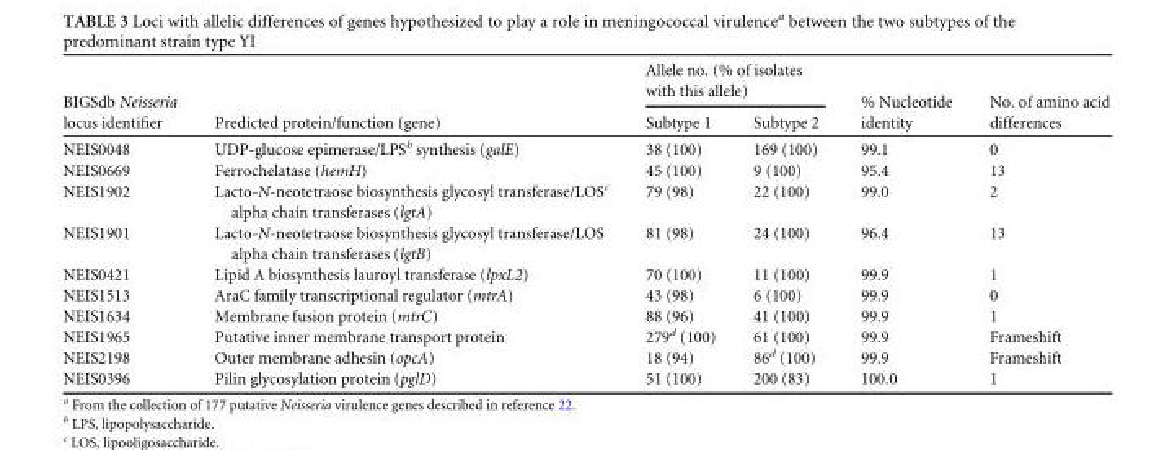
<table><thead><tr><td rowspan="2">BIGSdb Neisseria locus identifier</td><td rowspan="2">Predicted protein/function (gene)</td><td colspan="2">Allele no. (% of isolates with this allele)</td><td rowspan="2">% Nucleotide identity</td><td rowspan="2">No. of amino acid differences</td></tr><tr><td>Subtype 1</td><td>Subtype 2</td></tr></thead><tbody><tr><td>NEIS0048</td><td>UDP-glucose epimerase/LPS<sup>b</sup> synthesis (galE)</td><td>38 (100)</td><td>169 (100)</td><td>99.1</td><td>0</td></tr><tr><td>NEIS0669</td><td>Ferrochelatase (hemH)</td><td>45 (100)</td><td>9 (100)</td><td>95.4</td><td>13</td></tr><tr><td>NEIS1902</td><td>Lacto-N-neotetraose biosynthesis glycosyl transferase/LOS<sup>c</sup> alpha chain transferases (lgtA)</td><td>79 (98)</td><td>22 (100)</td><td>99.0</td><td>2</td></tr><tr><td>NEIS1901</td><td>Lacto-N-neotetraose biosynthesis glycosyl transferase/LOS alpha chain transferases (lgtB)</td><td>81 (98)</td><td>24 (100)</td><td>96.4</td><td>13</td></tr><tr><td>NEIS0421</td><td>Lipid A biosynthesis lauroyl transferase (lpxL2)</td><td>70 (100)</td><td>11 (100)</td><td>99.9</td><td>1</td></tr><tr><td>NEIS1513</td><td>AraC family transcriptional regulator (mtrA)</td><td>43 (98)</td><td>6 (100)</td><td>99.9</td><td>0</td></tr><tr><td>NEIS1634</td><td>Membrane fusion protein (mtrC)</td><td>88 (96)</td><td>41 (100)</td><td>99.9</td><td>1</td></tr><tr><td>NEIS1965</td><td>Putative inner membrane transport protein</td><td>279<sup>d</sup> (100)</td><td>61 (100)</td><td>99.9</td><td>Frameshift</td></tr><tr><td>NEIS2198</td><td>Outer membrane adhesin (opcA)</td><td>18 (94)</td><td>86<sup>d</sup> (100)</td><td>99.9</td><td>Frameshift</td></tr><tr><td>NEIS0396</td><td>Pilin glycosylation protein (pglD)</td><td>51 (100)</td><td>200 (83)</td><td>100.0</td><td>1</td></tr></tbody></table>